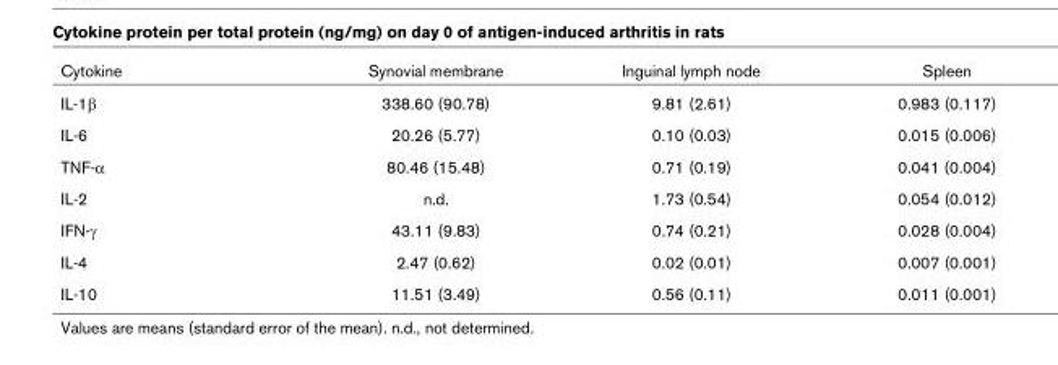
<table><thead><tr><td>Cytokine</td><td>Synovial membrane</td><td>Inguinal lymph node</td><td>Spleen</td></tr></thead><tbody><tr><td>IL-1β</td><td>338.60 (90.78)</td><td>9.81 (2.61)</td><td>0.983 (0.117)</td></tr><tr><td>IL-6</td><td>20.26 (5.77)</td><td>0.10 (0.03)</td><td>0.015 (0.006)</td></tr><tr><td>TNF-α</td><td>80.46 (15.48)</td><td>0.71 (0.19)</td><td>0.041 (0.004)</td></tr><tr><td>IL-2</td><td>n.d.</td><td>1.73 (0.54)</td><td>0.054 (0.012)</td></tr><tr><td>IFN-γ</td><td>43.11 (9.83)</td><td>0.74 (0.21)</td><td>0.028 (0.004)</td></tr><tr><td>IL-4</td><td>2.47 (0.62)</td><td>0.02 (0.01)</td><td>0.007 (0.001)</td></tr><tr><td>IL-10</td><td>11.51 (3.49)</td><td>0.56 (0.11)</td><td>0.011 (0.001)</td></tr></tbody></table>